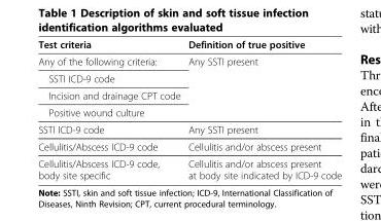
<table><thead><tr><td>Test criteria</td><td>Definition of true positive</td></tr></thead><tbody><tr><td>Any of the following criteria:</td><td rowspan="4">Any SSTI present</td></tr><tr><td>SSTI ICD-9 code</td></tr><tr><td>Incision and drainage CPT code</td></tr><tr><td>Positive wound culture</td></tr><tr><td>SSTI ICD-9 code</td><td>Any SSTI present</td></tr><tr><td>Cellulitis/Abscess ICD-9 code</td><td>Cellulitis and/or abscess present</td></tr><tr><td>Cellulitis/Abscess ICD-9 code, body site specific</td><td>Cellulitis and/or abscess present at body site indicated by ICD-9 code</td></tr></tbody></table>